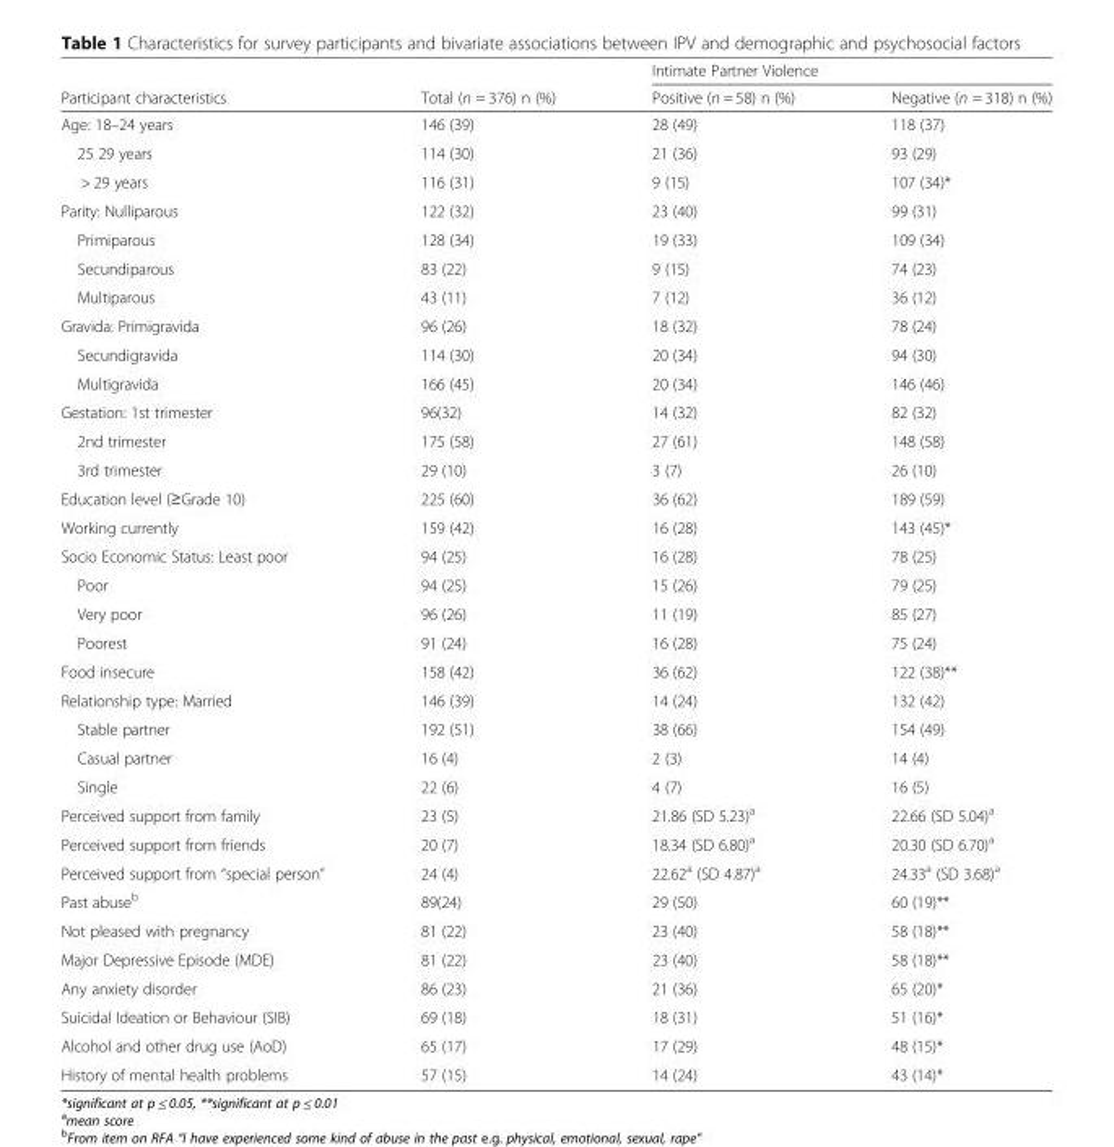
<table><thead><tr><td rowspan="2">Participant characteristics</td><td rowspan="2">Total (n = 376) n (%)</td><td colspan="2">Intimate Partner Violence</td></tr><tr><td>Positive (n = 58) n (%)</td><td>Negative (n = 318) n (%)</td></tr></thead><tbody><tr><td>Age: 18–24 years</td><td>146 (39)</td><td>28 (49)</td><td>118 (37)</td></tr><tr><td>25 29 years</td><td>114 (30)</td><td>21 (36)</td><td>93 (29)</td></tr><tr><td>&gt; 29 years</td><td>116 (31)</td><td>9 (15)</td><td>107 (34)*</td></tr><tr><td>Parity: Nulliparous</td><td>122 (32)</td><td>23 (40)</td><td>99 (31)</td></tr><tr><td>Primiparous</td><td>128 (34)</td><td>19 (33)</td><td>109 (34)</td></tr><tr><td>Secundiparous</td><td>83 (22)</td><td>9 (15)</td><td>74 (23)</td></tr><tr><td>Multiparous</td><td>43 (11)</td><td>7 (12)</td><td>36 (12)</td></tr><tr><td>Gravida: Primigravida</td><td>96 (26)</td><td>18 (32)</td><td>78 (24)</td></tr><tr><td>Secundigravida</td><td>114 (30)</td><td>20 (34)</td><td>94 (30)</td></tr><tr><td>Multigravida</td><td>166 (45)</td><td>20 (34)</td><td>146 (46)</td></tr><tr><td>Gestation: 1st trimester</td><td>96(32)</td><td>14 (32)</td><td>82 (32)</td></tr><tr><td>2nd trimester</td><td>175 (58)</td><td>27 (61)</td><td>148 (58)</td></tr><tr><td>3rd trimester</td><td>29 (10)</td><td>3 (7)</td><td>26 (10)</td></tr><tr><td>Education level (≥Grade 10)</td><td>225 (60)</td><td>36 (62)</td><td>189 (59)</td></tr><tr><td>Working currently</td><td>159 (42)</td><td>16 (28)</td><td>143 (45)*</td></tr><tr><td>Socio Economic Status: Least poor</td><td>94 (25)</td><td>16 (28)</td><td>78 (25)</td></tr><tr><td>Poor</td><td>94 (25)</td><td>15 (26)</td><td>79 (25)</td></tr><tr><td>Very poor</td><td>96 (26)</td><td>11 (19)</td><td>85 (27)</td></tr><tr><td>Poorest</td><td>91 (24)</td><td>16 (28)</td><td>75 (24)</td></tr><tr><td>Food insecure</td><td>158 (42)</td><td>36 (62)</td><td>122 (38)**</td></tr><tr><td>Relationship type: Married</td><td>146 (39)</td><td>14 (24)</td><td>132 (42)</td></tr><tr><td>Stable partner</td><td>192 (51)</td><td>38 (66)</td><td>154 (49)</td></tr><tr><td>Casual partner</td><td>16 (4)</td><td>2 (3)</td><td>14 (4)</td></tr><tr><td>Single</td><td>22 (6)</td><td>4 (7)</td><td>16 (5)</td></tr><tr><td>Perceived support from family</td><td>23 (5)</td><td>21.86 (SD 5.23)<sup>a</sup></td><td>22.66 (SD 5.04)<sup>a</sup></td></tr><tr><td>Perceived support from friends</td><td>20 (7)</td><td>18.34 (SD 6.80)<sup>a</sup></td><td>20.30 (SD 6.70)<sup>a</sup></td></tr><tr><td>Perceived support from “special person”</td><td>24 (4)</td><td>22.62<sup>a</sup> (SD 4.87)<sup>a</sup></td><td>24.33<sup>a</sup> (SD 3.68)<sup>a</sup></td></tr><tr><td>Past abuse<sup>b</sup></td><td>89(24)</td><td>29 (50)</td><td>60 (19)**</td></tr><tr><td>Not pleased with pregnancy</td><td>81 (22)</td><td>23 (40)</td><td>58 (18)**</td></tr><tr><td>Major Depressive Episode (MDE)</td><td>81 (22)</td><td>23 (40)</td><td>58 (18)**</td></tr><tr><td>Any anxiety disorder</td><td>86 (23)</td><td>21 (36)</td><td>65 (20)*</td></tr><tr><td>Suicidal Ideation or Behaviour (SIB)</td><td>69 (18)</td><td>18 (31)</td><td>51 (16)*</td></tr><tr><td>Alcohol and other drug use (AoD)</td><td>65 (17)</td><td>17 (29)</td><td>48 (15)*</td></tr><tr><td>History of mental health problems</td><td>57 (15)</td><td>14 (24)</td><td>43 (14)*</td></tr></tbody></table>